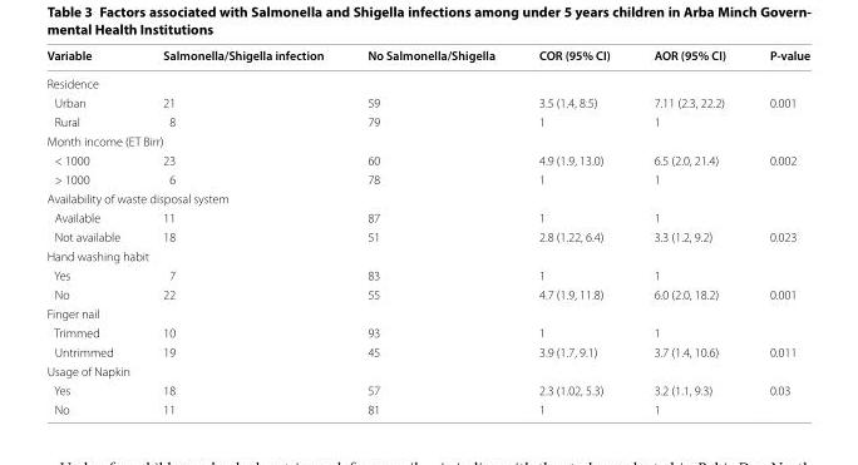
<table><thead><tr><td>Variable</td><td>Salmonella/Shigella infection</td><td>No Salmonella/Shigella</td><td>COR (95% CI)</td><td>AOR (95% CI)</td><td>P‑value</td></tr></thead><tbody><tr><td colspan="6">Residence</td></tr><tr><td>Urban</td><td>21</td><td>59</td><td>3.5 (1.4, 8.5)</td><td>7.11 (2.3, 22.2)</td><td>0.001</td></tr><tr><td>Rural</td><td>8</td><td>79</td><td>1</td><td>1</td><td></td></tr><tr><td colspan="6">Month income (ET Birr)</td></tr><tr><td>&lt; 1000</td><td>23</td><td>60</td><td>4.9 (1.9, 13.0)</td><td>6.5 (2.0, 21.4)</td><td>0.002</td></tr><tr><td>&gt; 1000</td><td>6</td><td>78</td><td>1</td><td>1</td><td></td></tr><tr><td colspan="6">Availability of waste disposal system</td></tr><tr><td>Available</td><td>11</td><td>87</td><td>1</td><td>1</td><td></td></tr><tr><td>Not available</td><td>18</td><td>51</td><td>2.8 (1.22, 6.4)</td><td>3.3 (1.2, 9.2)</td><td>0.023</td></tr><tr><td colspan="6">Hand washing habit</td></tr><tr><td>Yes</td><td>7</td><td>83</td><td>1</td><td>1</td><td></td></tr><tr><td>No</td><td>22</td><td>55</td><td>4.7 (1.9, 11.8)</td><td>6.0 (2.0, 18.2)</td><td>0.001</td></tr><tr><td colspan="6">Finger nail</td></tr><tr><td>Trimmed</td><td>10</td><td>93</td><td>1</td><td>1</td><td></td></tr><tr><td>Untrimmed</td><td>19</td><td>45</td><td>3.9 (1.7, 9.1)</td><td>3.7 (1.4, 10.6)</td><td>0.011</td></tr><tr><td colspan="6">Usage of Napkin</td></tr><tr><td>Yes</td><td>18</td><td>57</td><td>2.3 (1.02, 5.3)</td><td>3.2 (1.1, 9.3)</td><td>0.03</td></tr><tr><td>No</td><td>11</td><td>81</td><td>1</td><td>1</td><td></td></tr></tbody></table>